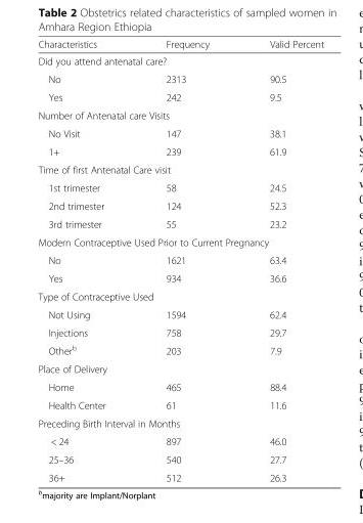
<table><thead><tr><td>Characteristics</td><td>Frequency</td><td>Valid Percent</td></tr></thead><tbody><tr><td colspan="3">Did you attend antenatal care?</td></tr><tr><td>No</td><td>2313</td><td>90.5</td></tr><tr><td>Yes</td><td>242</td><td>9.5</td></tr><tr><td colspan="3">Number of Antenatal care Visits</td></tr><tr><td>No Visit</td><td>147</td><td>38.1</td></tr><tr><td>1+</td><td>239</td><td>61.9</td></tr><tr><td colspan="3">Time of first Antenatal Care visit</td></tr><tr><td>1st trimester</td><td>58</td><td>24.5</td></tr><tr><td>2nd trimester</td><td>124</td><td>52.3</td></tr><tr><td>3rd trimester</td><td>55</td><td>23.2</td></tr><tr><td colspan="3">Modern Contraceptive Used Prior to Current Pregnancy</td></tr><tr><td>No</td><td>1621</td><td>63.4</td></tr><tr><td>Yes</td><td>934</td><td>36.6</td></tr><tr><td colspan="3">Type of Contraceptive Used</td></tr><tr><td>Not Using</td><td>1594</td><td>62.4</td></tr><tr><td>Injections</td><td>758</td><td>29.7</td></tr><tr><td>Other<sup>b</sup></td><td>203</td><td>7.9</td></tr><tr><td colspan="3">Place of Delivery</td></tr><tr><td>Home</td><td>465</td><td>88.4</td></tr><tr><td>Health Center</td><td>61</td><td>11.6</td></tr><tr><td colspan="3">Preceding Birth Interval in Months</td></tr><tr><td>&lt; 24</td><td>897</td><td>46.0</td></tr><tr><td>25–36</td><td>540</td><td>27.7</td></tr><tr><td>36+</td><td>512</td><td>26.3</td></tr></tbody></table>